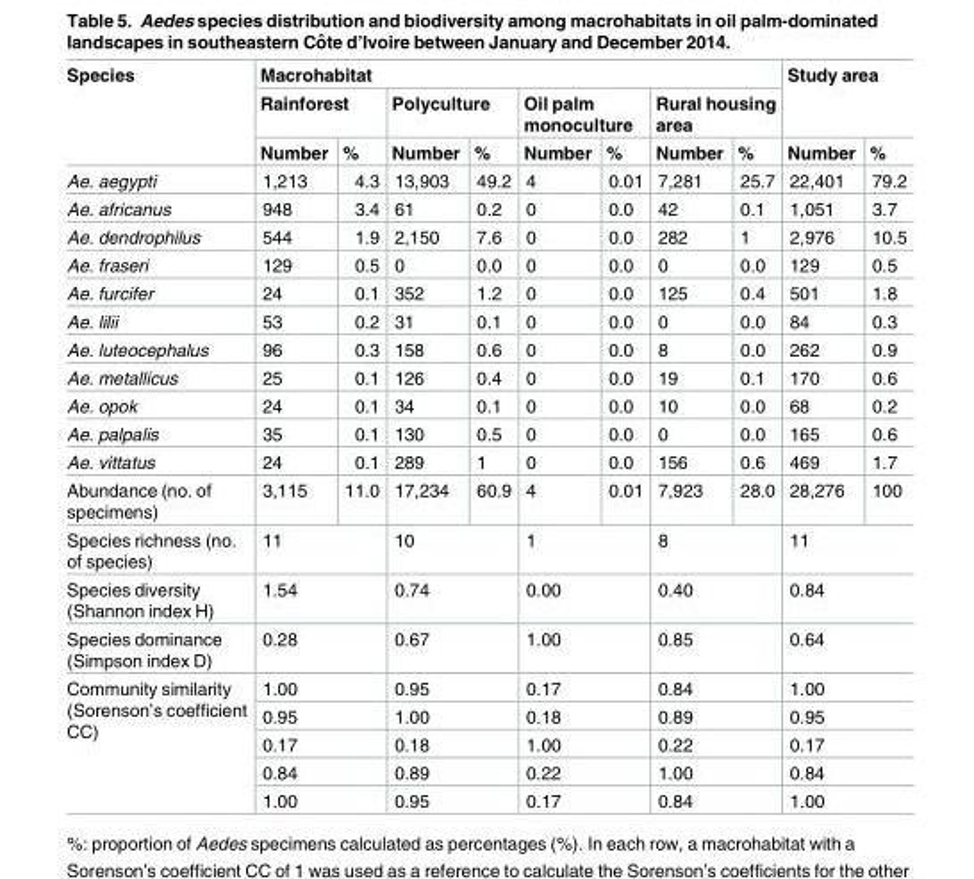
<table><thead><tr><td rowspan="3">Species</td><td colspan="8">Macrohabitat</td><td rowspan="2" colspan="2">Study area</td></tr><tr><td colspan="2">Rainforest</td><td colspan="2">Polyculture</td><td colspan="2">Oil palm monoculture</td><td colspan="2">Rural housing area</td></tr><tr><td>Number</td><td>%</td><td>Number</td><td>%</td><td>Number</td><td>%</td><td>Number</td><td>%</td><td>Number</td><td>%</td></tr></thead><tbody><tr><td>Ae. aegypti</td><td>1,213</td><td>4.3</td><td>13,903</td><td>49.2</td><td>4</td><td>0.01</td><td>7,281</td><td>25.7</td><td>22,401</td><td>79.2</td></tr><tr><td>Ae. africanus</td><td>948</td><td>3.4</td><td>61</td><td>0.2</td><td>0</td><td>0.0</td><td>42</td><td>0.1</td><td>1,051</td><td>3.7</td></tr><tr><td>Ae. dendrophilus</td><td>544</td><td>1.9</td><td>2,150</td><td>7.6</td><td>0</td><td>0.0</td><td>282</td><td>1</td><td>2,976</td><td>10.5</td></tr><tr><td>Ae. fraseri</td><td>129</td><td>0.5</td><td>0</td><td>0.0</td><td>0</td><td>0.0</td><td>0</td><td>0.0</td><td>129</td><td>0.5</td></tr><tr><td>Ae. furcifer</td><td>24</td><td>0.1</td><td>352</td><td>1.2</td><td>0</td><td>0.0</td><td>125</td><td>0.4</td><td>501</td><td>1.8</td></tr><tr><td>Ae. lilii</td><td>53</td><td>0.2</td><td>31</td><td>0.1</td><td>0</td><td>0.0</td><td>0</td><td>0.0</td><td>84</td><td>0.3</td></tr><tr><td>Ae. luteocephalus</td><td>96</td><td>0.3</td><td>158</td><td>0.6</td><td>0</td><td>0.0</td><td>8</td><td>0.0</td><td>262</td><td>0.9</td></tr><tr><td>Ae. metallicus</td><td>25</td><td>0.1</td><td>126</td><td>0.4</td><td>0</td><td>0.0</td><td>19</td><td>0.1</td><td>170</td><td>0.6</td></tr><tr><td>Ae. opok</td><td>24</td><td>0.1</td><td>34</td><td>0.1</td><td>0</td><td>0.0</td><td>10</td><td>0.0</td><td>68</td><td>0.2</td></tr><tr><td>Ae. palpalis</td><td>35</td><td>0.1</td><td>130</td><td>0.5</td><td>0</td><td>0.0</td><td>0</td><td>0.0</td><td>165</td><td>0.6</td></tr><tr><td>Ae. vittatus</td><td>24</td><td>0.1</td><td>289</td><td>1</td><td>0</td><td>0.0</td><td>156</td><td>0.6</td><td>469</td><td>1.7</td></tr><tr><td>Abundance (no. of specimens)</td><td>3,115</td><td>11.0</td><td>17,234</td><td>60.9</td><td>4</td><td>0.01</td><td>7,923</td><td>28.0</td><td>28,276</td><td>100</td></tr><tr><td>Species richness (no. of species)</td><td colspan="2">11</td><td colspan="2">10</td><td colspan="2">1</td><td colspan="2">8</td><td colspan="2">11</td></tr><tr><td>Species diversity (Shannon index H)</td><td colspan="2">1.54</td><td colspan="2">0.74</td><td colspan="2">0.00</td><td colspan="2">0.40</td><td colspan="2">0.84</td></tr><tr><td>Species dominance (Simpson index D)</td><td colspan="2">0.28</td><td colspan="2">0.67</td><td colspan="2">1.00</td><td colspan="2">0.85</td><td colspan="2">0.64</td></tr><tr><td rowspan="5">Community similarity (Sorenson’s coefficient CC)</td><td colspan="2">1.00</td><td colspan="2">0.95</td><td colspan="2">0.17</td><td colspan="2">0.84</td><td colspan="2">1.00</td></tr><tr><td colspan="2">0.95</td><td colspan="2">1.00</td><td colspan="2">0.18</td><td colspan="2">0.89</td><td colspan="2">0.95</td></tr><tr><td colspan="2">0.17</td><td colspan="2">0.18</td><td colspan="2">1.00</td><td colspan="2">0.22</td><td colspan="2">0.17</td></tr><tr><td colspan="2">0.84</td><td colspan="2">0.89</td><td colspan="2">0.22</td><td colspan="2">1.00</td><td colspan="2">0.84</td></tr><tr><td colspan="2">1.00</td><td colspan="2">0.95</td><td colspan="2">0.17</td><td colspan="2">0.84</td><td colspan="2">1.00</td></tr></tbody></table>